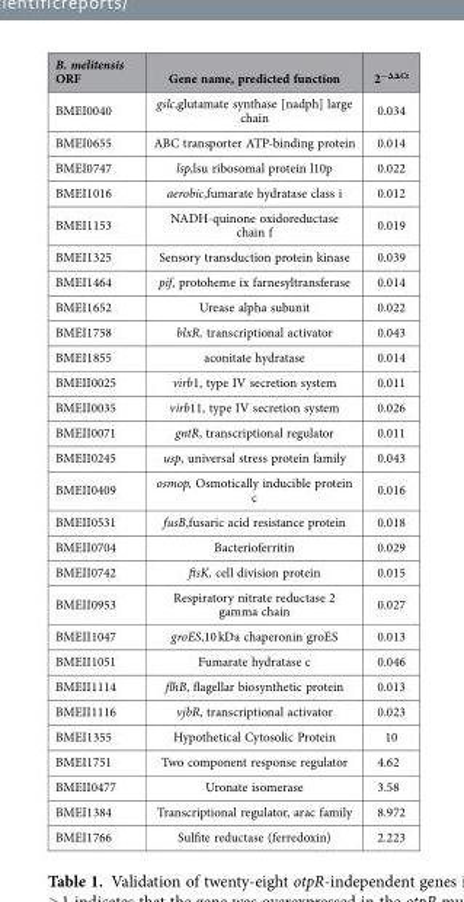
<table><thead><tr><td>B. melitensis ORF</td><td>Gene name, predicted function</td><td>2<sup>−ΔΔCt</sup></td></tr></thead><tbody><tr><td>BMEI0040</td><td>gslc,glutamate synthase [nadph] large chain</td><td>0.034</td></tr><tr><td>BMEI0655</td><td>ABC transporter ATP-binding protein</td><td>0.014</td></tr><tr><td>BMEI0747</td><td>lsp,lsu ribosomal protein l10p</td><td>0.022</td></tr><tr><td>BMEI1016</td><td>aerobic,fumarate hydratase class i</td><td>0.012</td></tr><tr><td>BMEI1153</td><td>NADH-quinone oxidoreductase chain f</td><td>0.019</td></tr><tr><td>BMEI1325</td><td>Sensory transduction protein kinase</td><td>0.039</td></tr><tr><td>BMEI1464</td><td>pif, protoheme ix farnesyltransferase</td><td>0.014</td></tr><tr><td>BMEI1652</td><td>Urease alpha subunit</td><td>0.022</td></tr><tr><td>BMEI1758</td><td>blxR, transcriptional activator</td><td>0.043</td></tr><tr><td>BMEI1855</td><td>aconitate hydratase</td><td>0.014</td></tr><tr><td>BMEII0025</td><td>virb1, type IV secretion system</td><td>0.011</td></tr><tr><td>BMEII0035</td><td>virb11, type IV secretion system</td><td>0.026</td></tr><tr><td>BMEII0071</td><td>gntR, transcriptional regulator</td><td>0.011</td></tr><tr><td>BMEII0245</td><td>usp, universal stress protein family</td><td>0.043</td></tr><tr><td>BMEII0409</td><td>osmop, Osmotically inducible protein c</td><td>0.016</td></tr><tr><td>BMEII0531</td><td>fusB,fusaric acid resistance protein</td><td>0.018</td></tr><tr><td>BMEII0704</td><td>Bacterioferritin</td><td>0.029</td></tr><tr><td>BMEII0742</td><td>ftsK, cell division protein</td><td>0.015</td></tr><tr><td>BMEII0953</td><td>Respiratory nitrate reductase 2 gamma chain</td><td>0.027</td></tr><tr><td>BMEII1047</td><td>groES,10 kDa chaperonin groES</td><td>0.013</td></tr><tr><td>BMEII1051</td><td>Fumarate hydratase c</td><td>0.046</td></tr><tr><td>BMEII1114</td><td>flhB, flagellar biosynthetic protein</td><td>0.013</td></tr><tr><td>BMEII1116</td><td>vjbR, transcriptional activator</td><td>0.023</td></tr><tr><td>BMEI1355</td><td>Hypothetical Cytosolic Protein</td><td>10</td></tr><tr><td>BMEI1751</td><td>Two component response regulator</td><td>4.62</td></tr><tr><td>BMEII0477</td><td>Uronate isomerase</td><td>3.58</td></tr><tr><td>BMEI1384</td><td>Transcriptional regulator, arac family</td><td>8.972</td></tr><tr><td>BMEI1766</td><td>Sulfite reductase (ferredoxin)</td><td>2.223</td></tr></tbody></table>